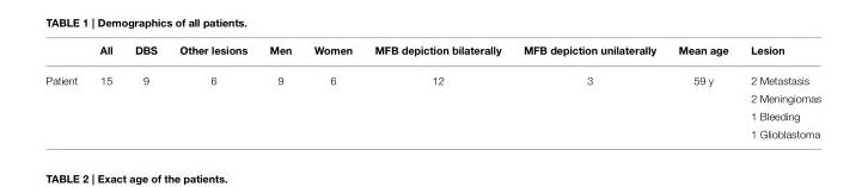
<table><thead><tr><td></td><td>All</td><td>DBS</td><td>Other lesions</td><td>Men</td><td>Women</td><td>MFB depiction bilaterally</td><td>MFB depiction unilaterally</td><td>Mean age</td><td>Lesion</td></tr></thead><tbody><tr><td>Patient</td><td>15</td><td>9</td><td>6</td><td>9</td><td>6</td><td>12</td><td>3</td><td>59 y</td><td>2 Metastasis</td></tr><tr><td colspan="9"></td><td>2 Meningiomas</td></tr><tr><td colspan="9"></td><td>1 Bleeding</td></tr><tr><td colspan="9"></td><td>1 Glioblastoma</td></tr></tbody></table>